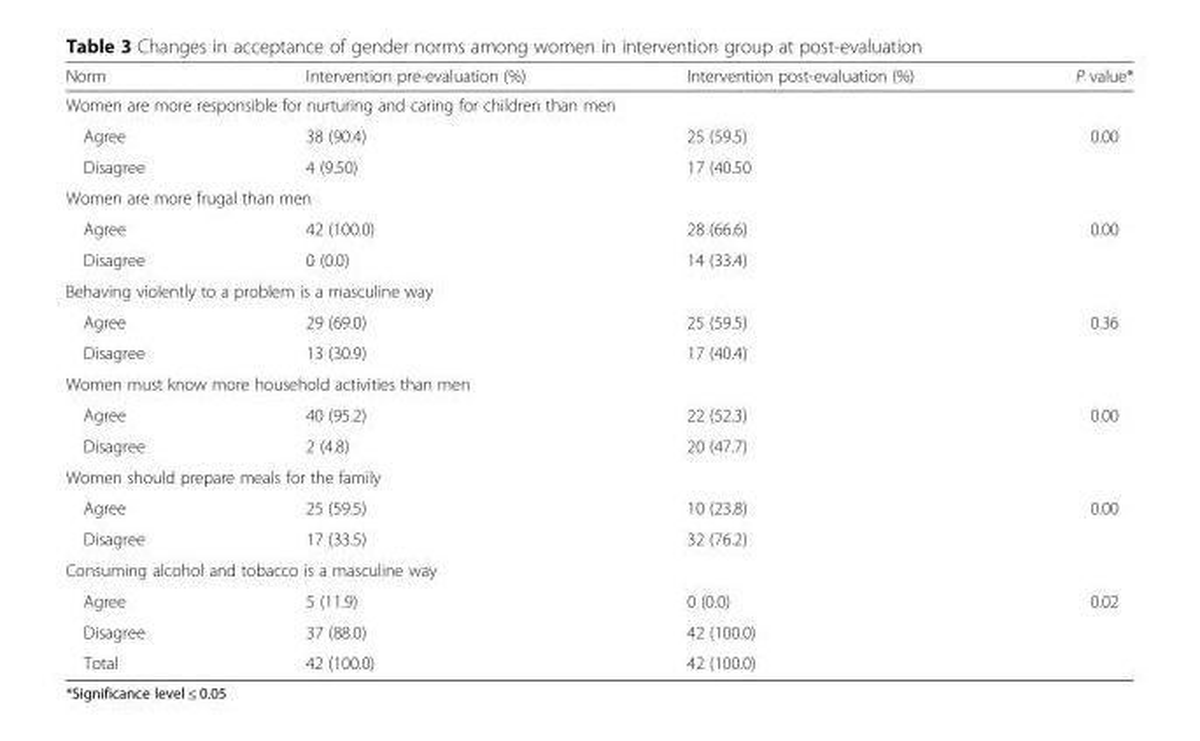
<table><thead><tr><td>Norm</td><td>Intervention pre-evaluation (%)</td><td>Intervention post-evaluation (%)</td><td>P value*</td></tr></thead><tbody><tr><td colspan="4">Women are more responsible for nurturing and caring for children than men</td></tr><tr><td>Agree</td><td>38 (90.4)</td><td>25 (59.5)</td><td rowspan="2">0.00</td></tr><tr><td>Disagree</td><td>4 (9.50)</td><td>17 (40.50</td></tr><tr><td colspan="4">Women are more frugal than men</td></tr><tr><td>Agree</td><td>42 (100.0)</td><td>28 (66.6)</td><td rowspan="2">0.00</td></tr><tr><td>Disagree</td><td>0 (0.0)</td><td>14 (33.4)</td></tr><tr><td colspan="4">Behaving violently to a problem is a masculine way</td></tr><tr><td>Agree</td><td>29 (69.0)</td><td>25 (59.5)</td><td rowspan="2">0.36</td></tr><tr><td>Disagree</td><td>13 (30.9)</td><td>17 (40.4)</td></tr><tr><td colspan="4">Women must know more household activities than men</td></tr><tr><td>Agree</td><td>40 (95.2)</td><td>22 (52.3)</td><td rowspan="2">0.00</td></tr><tr><td>Disagree</td><td>2 (4.8)</td><td>20 (47.7)</td></tr><tr><td colspan="4">Women should prepare meals for the family</td></tr><tr><td>Agree</td><td>25 (59.5)</td><td>10 (23.8)</td><td rowspan="2">0.00</td></tr><tr><td>Disagree</td><td>17 (33.5)</td><td>32 (76.2)</td></tr><tr><td colspan="4">Consuming alcohol and tobacco is a masculine way</td></tr><tr><td>Agree</td><td>5 (11.9)</td><td>0 (0.0)</td><td rowspan="2">0.02</td></tr><tr><td>Disagree</td><td>37 (88.0)</td><td>42 (100.0)</td></tr><tr><td>Total</td><td>42 (100.0)</td><td>42 (100.0)</td><td></td></tr></tbody></table>